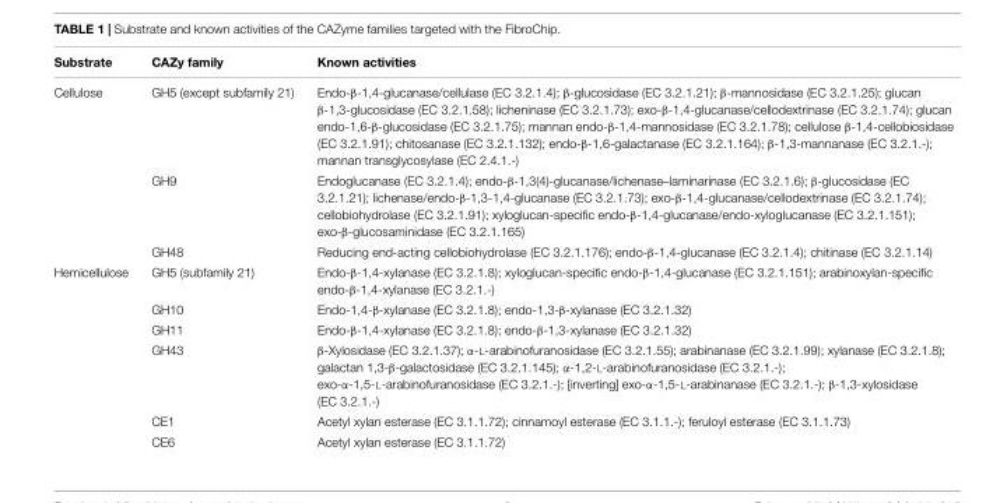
<table><thead><tr><td>Substrate</td><td>CAZy family</td><td>Known activities</td></tr></thead><tbody><tr><td rowspan="3">Cellulose</td><td>GH5 (except subfamily 21)</td><td>Endo-β-1,4-glucanase/cellulase (EC 3.2.1.4); β-glucosidase (EC 3.2.1.21); β-mannosidase (EC 3.2.1.25); glucan β-1,3-glucosidase (EC 3.2.1.58); licheninase (EC 3.2.1.73); exo-β-1,4-glucanase/cellodextrinase (EC 3.2.1.74); glucan endo-1,6-β-glucosidase (EC 3.2.1.75); mannan endo-β-1,4-mannosidase (EC 3.2.1.78); cellulose β-1,4-cellobiosidase (EC 3.2.1.91); chitosanase (EC 3.2.1.132); endo-β-1,6-galactanase (EC 3.2.1.164); β-1,3-mannanase (EC 3.2.1.-); mannan transglycosylase (EC 2.4.1.-)</td></tr><tr><td>GH9</td><td>Endoglucanase (EC 3.2.1.4); endo-β-1,3(4)-glucanase/lichenase–laminarinase (EC 3.2.1.6); β-glucosidase (EC 3.2.1.21); lichenase/endo-β-1,3-1,4-glucanase (EC 3.2.1.73); exo-β-1,4-glucanase/cellodextrinase (EC 3.2.1.74); cellobiohydrolase (EC 3.2.1.91); xyloglucan-specific endo-β-1,4-glucanase/endo-xyloglucanase (EC 3.2.1.151); exo-β-glucosaminidase (EC 3.2.1.165)</td></tr><tr><td>GH48</td><td>Reducing end-acting cellobiohydrolase (EC 3.2.1.176); endo-β-1,4-glucanase (EC 3.2.1.4); chitinase (EC 3.2.1.14)</td></tr><tr><td rowspan="6">Hemicellulose</td><td>GH5 (subfamily 21)</td><td>Endo-β-1,4-xylanase (EC 3.2.1.8); xyloglucan-specific endo-β-1,4-glucanase (EC 3.2.1.151); arabinoxylan-specific endo-β-1,4-xylanase (EC 3.2.1.-)</td></tr><tr><td>GH10</td><td>Endo-1,4-β-xylanase (EC 3.2.1.8); endo-1,3-β-xylanase (EC 3.2.1.32)</td></tr><tr><td>GH11</td><td>Endo-β-1,4-xylanase (EC 3.2.1.8); endo-β-1,3-xylanase (EC 3.2.1.32)</td></tr><tr><td>GH43</td><td>β-Xylosidase (EC 3.2.1.37); α-L-arabinofuranosidase (EC 3.2.1.55); arabinanase (EC 3.2.1.99); xylanase (EC 3.2.1.8); galactan 1,3-β-galactosidase (EC 3.2.1.145); α-1,2-L-arabinofuranosidase (EC 3.2.1.-); exo-α-1,5-L-arabinofuranosidase (EC 3.2.1.-); [inverting] exo-α-1,5-L-arabinanase (EC 3.2.1.-); β-1,3-xylosidase (EC 3.2.1.-)</td></tr><tr><td>CE1</td><td>Acetyl xylan esterase (EC 3.1.1.72); cinnamoyl esterase (EC 3.1.1.-); feruloyl esterase (EC 3.1.1.73)</td></tr><tr><td>CE6</td><td>Acetyl xylan esterase (EC 3.1.1.72)</td></tr></tbody></table>